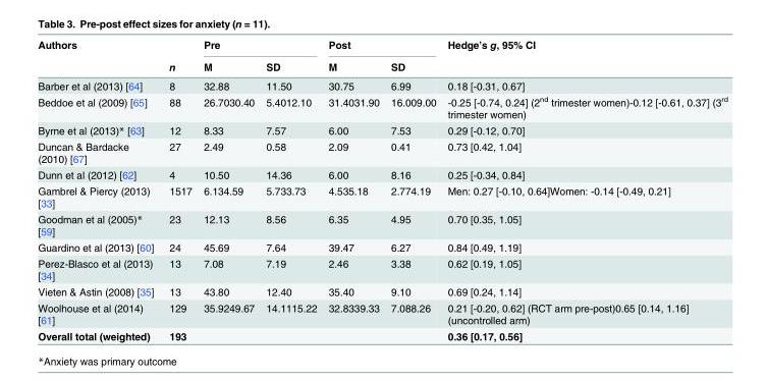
<table><thead><tr><td rowspan="2">Authors</td><td rowspan="2">n</td><td colspan="2">Pre</td><td colspan="2">Post</td><td rowspan="2">Hedge’s g, 95% CI</td></tr><tr><td>M</td><td>SD</td><td>M</td><td>SD</td></tr></thead><tbody><tr><td>Barber et al (2013) [64]</td><td>8</td><td>32.88</td><td>11.50</td><td>30.75</td><td>6.99</td><td>0.18 [-0.31, 0.67]</td></tr><tr><td>Beddoe et al (2009) [65]</td><td>88</td><td>26.7030.40</td><td>5.4012.10</td><td>31.4031.90</td><td>16.009.00</td><td>-0.25 [-0.74, 0.24] (2<sup>nd</sup> trimester women)-0.12 [-0.61, 0.37] (3<sup>rd</sup> trimester women)</td></tr><tr><td>Byrne et al (2013)* [63]</td><td>12</td><td>8.33</td><td>7.57</td><td>6.00</td><td>7.53</td><td>0.29 [-0.12, 0.70]</td></tr><tr><td>Duncan &amp; Bardacke (2010) [67]</td><td>27</td><td>2.49</td><td>0.58</td><td>2.09</td><td>0.41</td><td>0.73 [0.42, 1.04]</td></tr><tr><td>Dunn et al (2012) [62]</td><td>4</td><td>10.50</td><td>14.36</td><td>6.00</td><td>8.16</td><td>0.25 [-0.34, 0.84]</td></tr><tr><td>Gambrel &amp; Piercy (2013) [33]</td><td>1517</td><td>6.134.59</td><td>5.733.73</td><td>4.535.18</td><td>2.774.19</td><td>Men: 0.27 [-0.10, 0.64]Women: -0.14 [-0.49, 0.21]</td></tr><tr><td>Goodman et al (2005)* [59]</td><td>23</td><td>12.13</td><td>8.56</td><td>6.35</td><td>4.95</td><td>0.70 [0.35, 1.05]</td></tr><tr><td>Guardino et al (2013) [60]</td><td>24</td><td>45.69</td><td>7.64</td><td>39.47</td><td>6.27</td><td>0.84 [0.49, 1.19]</td></tr><tr><td>Perez-Blasco et al (2013) [34]</td><td>13</td><td>7.08</td><td>7.19</td><td>2.46</td><td>3.38</td><td>0.62 [0.19, 1.05]</td></tr><tr><td>Vieten &amp; Astin (2008) [35]</td><td>13</td><td>43.80</td><td>12.40</td><td>35.40</td><td>9.10</td><td>0.69 [0.24, 1.14]</td></tr><tr><td>Woolhouse et al (2014) [61]</td><td>129</td><td>35.9249.67</td><td>14.1115.22</td><td>32.8339.33</td><td>7.088.26</td><td>0.21 [-0.20, 0.62] (RCT arm pre-post)0.65 [0.14, 1.16] (uncontrolled arm)</td></tr><tr><td>Overall total (weighted)</td><td>193</td><td></td><td></td><td></td><td></td><td>0.36 [0.17, 0.56]</td></tr></tbody></table>